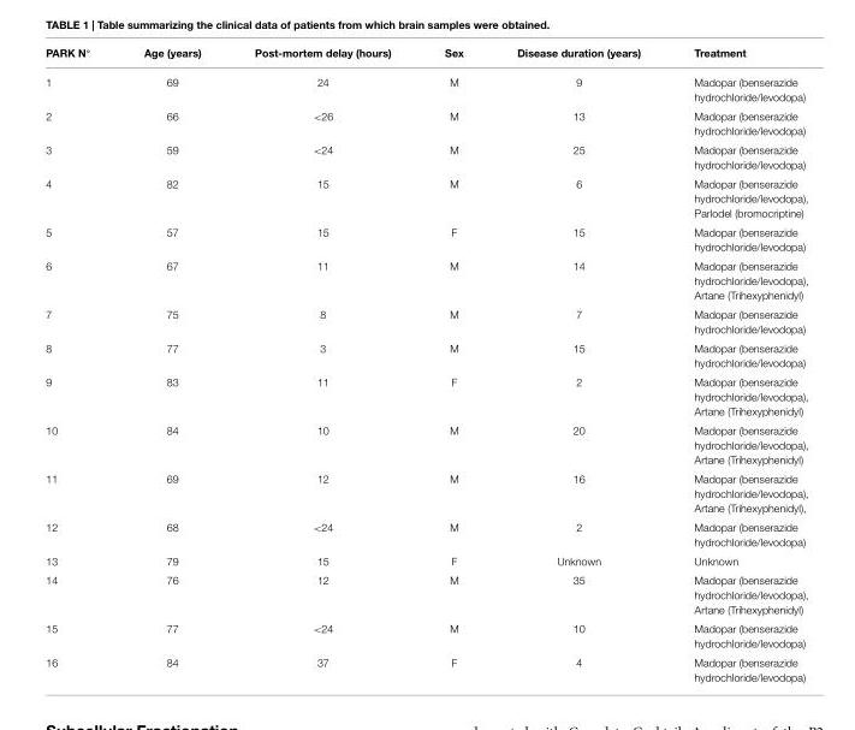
<table><thead><tr><td>PARK N◦</td><td>Age (years)</td><td>Post-mortem delay (hours)</td><td>Sex</td><td>Disease duration (years)</td><td>Treatment</td></tr></thead><tbody><tr><td>1</td><td>69</td><td>24</td><td>M</td><td>9</td><td>Madopar (benserazide hydrochloride/levodopa)</td></tr><tr><td>2</td><td>66</td><td>&lt;26</td><td>M</td><td>13</td><td>Madopar (benserazide hydrochloride/levodopa)</td></tr><tr><td>3</td><td>59</td><td>&lt;24</td><td>M</td><td>25</td><td>Madopar (benserazide hydrochloride/levodopa)</td></tr><tr><td>4</td><td>82</td><td>15</td><td>M</td><td>6</td><td>Madopar (benserazide hydrochloride/levodopa), Parlodel (bromocriptine)</td></tr><tr><td>5</td><td>57</td><td>15</td><td>F</td><td>15</td><td>Madopar (benserazide hydrochloride/levodopa)</td></tr><tr><td>6</td><td>67</td><td>11</td><td>M</td><td>14</td><td>Madopar (benserazide hydrochloride/levodopa), Artane (Trihexyphenidyl)</td></tr><tr><td>7</td><td>75</td><td>8</td><td>M</td><td>7</td><td>Madopar (benserazide hydrochloride/levodopa)</td></tr><tr><td>8</td><td>77</td><td>3</td><td>M</td><td>15</td><td>Madopar (benserazide hydrochloride/levodopa)</td></tr><tr><td>9</td><td>83</td><td>11</td><td>F</td><td>2</td><td>Madopar (benserazide hydrochloride/levodopa), Artane (Trihexyphenidyl)</td></tr><tr><td>10</td><td>84</td><td>10</td><td>M</td><td>20</td><td>Madopar (benserazide hydrochloride/levodopa), Artane (Trihexyphenidyl)</td></tr><tr><td>11</td><td>69</td><td>12</td><td>M</td><td>16</td><td>Madopar (benserazide hydrochloride/levodopa), Artane (Trihexyphenidyl),</td></tr><tr><td>12</td><td>68</td><td>&lt;24</td><td>M</td><td>2</td><td>Madopar (benserazide hydrochloride/levodopa)</td></tr><tr><td>13</td><td>79</td><td>15</td><td>F</td><td>Unknown</td><td>Unknown</td></tr><tr><td>14</td><td>76</td><td>12</td><td>M</td><td>35</td><td>Madopar (benserazide hydrochloride/levodopa), Artane (Trihexyphenidyl)</td></tr><tr><td>15</td><td>77</td><td>&lt;24</td><td>M</td><td>10</td><td>Madopar (benserazide hydrochloride/levodopa)</td></tr><tr><td>16</td><td>84</td><td>37</td><td>F</td><td>4</td><td>Madopar (benserazide hydrochloride/levodopa)</td></tr></tbody></table>